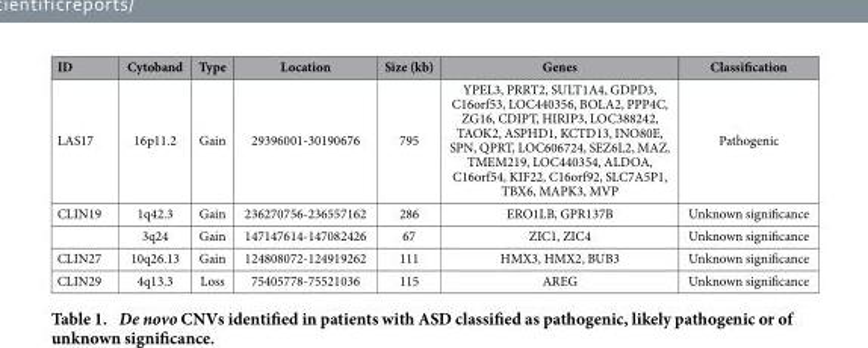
<table><thead><tr><td>ID</td><td>Cytoband</td><td>Type</td><td>Location</td><td>Size (kb)</td><td>Genes</td><td>Classification</td></tr></thead><tbody><tr><td>LAS17</td><td>16p11.2</td><td>Gain</td><td>29396001-30190676</td><td>795</td><td>YPEL3, PRRT2, SULT1A4, GDPD3, C16orf53, LOC440356, BOLA2, PPP4C, ZG16, CDIPT, HIRIP3, LOC388242, TAOK2, ASPHD1, KCTD13, INO80E, SPN, QPRT, LOC606724, SEZ6L2, MAZ, TMEM219, LOC440354, ALDOA, C16orf54, KIF22, C16orf92, SLC7A5P1, TBX6, MAPK3, MVP</td><td>Pathogenic</td></tr><tr><td rowspan="2">CLIN19</td><td>1q42.3</td><td>Gain</td><td>236270756-236557162</td><td>286</td><td>ERO1LB, GPR137B</td><td>Unknown significance</td></tr><tr><td>3q24</td><td>Gain</td><td>147147614-147082426</td><td>67</td><td>ZIC1, ZIC4</td><td>Unknown significance</td></tr><tr><td>CLIN27</td><td>10q26.13</td><td>Gain</td><td>124808072-124919262</td><td>111</td><td>HMX3, HMX2, BUB3</td><td>Unknown significance</td></tr><tr><td>CLIN29</td><td>4q13.3</td><td>Loss</td><td>75405778-75521036</td><td>115</td><td>AREG</td><td>Unknown significance</td></tr></tbody></table>